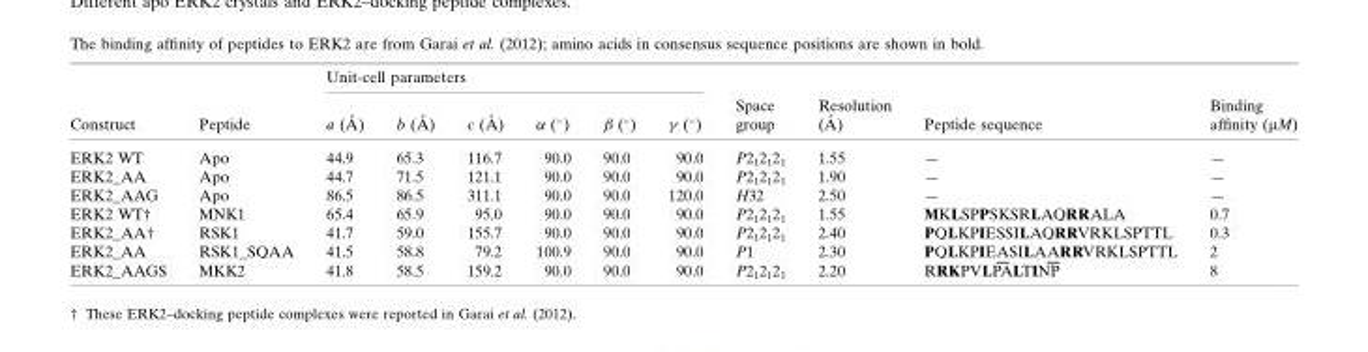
<table><thead><tr><td rowspan="2">Construct</td><td rowspan="2">Peptide</td><td colspan="6">Unit-cell parameters</td><td rowspan="2">Space group</td><td rowspan="2">Resolution (A˚ )</td><td rowspan="2">Peptide sequence</td><td rowspan="2">Binding affinity (µM)</td></tr><tr><td>a (A˚ )</td><td>b (A˚ )</td><td>c (A˚ )</td><td>α (°)</td><td>β (°)</td><td>γ (°)</td></tr></thead><tbody><tr><td>ERK2 WT</td><td>Apo</td><td>44.9</td><td>65.3</td><td>116.7</td><td>90.0</td><td>90.0</td><td>90.0</td><td>P2<sub>1</sub>2<sub>1</sub>2<sub>1</sub></td><td>1.55</td><td>—</td><td>—</td></tr><tr><td>ERK2_AA</td><td>Apo</td><td>44.7</td><td>71.5</td><td>121.1</td><td>90.0</td><td>90.0</td><td>90.0</td><td>P2<sub>1</sub>2<sub>1</sub>2<sub>1</sub></td><td>1.90</td><td>—</td><td>—</td></tr><tr><td>ERK2_AAG</td><td>Apo</td><td>86.5</td><td>86.5</td><td>311.1</td><td>90.0</td><td>90.0</td><td>120.0</td><td>H32</td><td>2.50</td><td>—</td><td>—</td></tr><tr><td>ERK2 WT†</td><td>MNK1</td><td>65.4</td><td>65.9</td><td>95.0</td><td>90.0</td><td>90.0</td><td>90.0</td><td>P2<sub>1</sub>2<sub>1</sub>2<sub>1</sub></td><td>1.55</td><td>MKLSPPSKSRLAQRRALA</td><td>0.7</td></tr><tr><td>ERK2_AA†</td><td>RSK1</td><td>41.7</td><td>59.0</td><td>155.7</td><td>90.0</td><td>90.0</td><td>90.0</td><td>P2<sub>1</sub>2<sub>1</sub>2<sub>1</sub></td><td>2.40</td><td>PQLKPIESSILAQRRVRKLSPTTL</td><td>0.3</td></tr><tr><td>ERK2_AA</td><td>RSK1_SQAA</td><td>41.5</td><td>58.8</td><td>79.2</td><td>100.9</td><td>90.0</td><td>90.0</td><td>P1</td><td>2.30</td><td>PQLKPIEASILAARRVRKLSPTTL</td><td>2</td></tr><tr><td>ERK2_AAGS</td><td>MKK2</td><td>41.8</td><td>58.5</td><td>159.2</td><td>90.0</td><td>90.0</td><td>90.0</td><td>P2<sub>1</sub>2<sub>1</sub>2<sub>1</sub></td><td>2.20</td><td>RRKPVLPALTINP</td><td>8</td></tr></tbody></table>